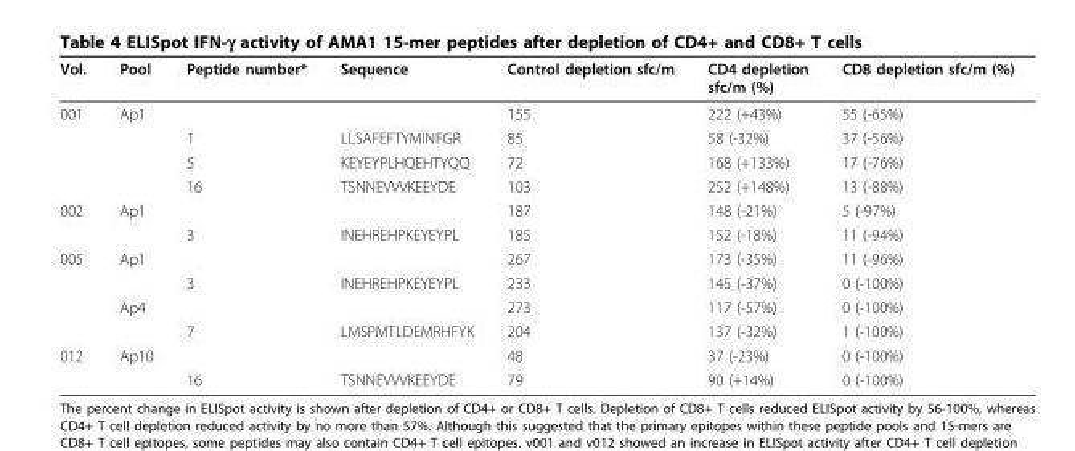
<table><thead><tr><td>Vol.</td><td>Pool</td><td>Peptide number*</td><td>Sequence</td><td>Control depletion sfc/m</td><td>CD4 depletion sfc/m (%)</td><td>CD8 depletion sfc/m (%)</td></tr></thead><tbody><tr><td rowspan="4">001</td><td>Ap1</td><td></td><td></td><td>155</td><td>222 (+43%)</td><td>55 (-65%)</td></tr><tr><td></td><td>1</td><td>LLSAFEFTYMINFGR</td><td>85</td><td>58 (-32%)</td><td>37 (-56%)</td></tr><tr><td></td><td>5</td><td>KEYEYPLHQEHTYQQ</td><td>72</td><td>168 (+133%)</td><td>17 (-76%)</td></tr><tr><td></td><td>16</td><td>TSNNEVVVKEEYDE</td><td>103</td><td>252 (+148%)</td><td>13 (-88%)</td></tr><tr><td rowspan="2">002</td><td>Ap1</td><td></td><td></td><td>187</td><td>148 (-21%)</td><td>5 (-97%)</td></tr><tr><td></td><td>3</td><td>INEHREHPKEYEYPL</td><td>185</td><td>152 (-18%)</td><td>11 (-94%)</td></tr><tr><td rowspan="4">005</td><td>Ap1</td><td></td><td></td><td>267</td><td>173 (-35%)</td><td>11 (-96%)</td></tr><tr><td></td><td>3</td><td>INEHREHPKEYEYPL</td><td>233</td><td>145 (-37%)</td><td>0 (-100%)</td></tr><tr><td>Ap4</td><td></td><td></td><td>273</td><td>117 (-57%)</td><td>0 (-100%)</td></tr><tr><td></td><td>7</td><td>LMSPMTLDEMRHFYK</td><td>204</td><td>137 (-32%)</td><td>1 (-100%)</td></tr><tr><td rowspan="2">012</td><td>Ap10</td><td></td><td></td><td>48</td><td>37 (-23%)</td><td>0 (-100%)</td></tr><tr><td></td><td>16</td><td>TSNNEVVVKEEYDE</td><td>79</td><td>90 (+14%)</td><td>0 (-100%)</td></tr></tbody></table>